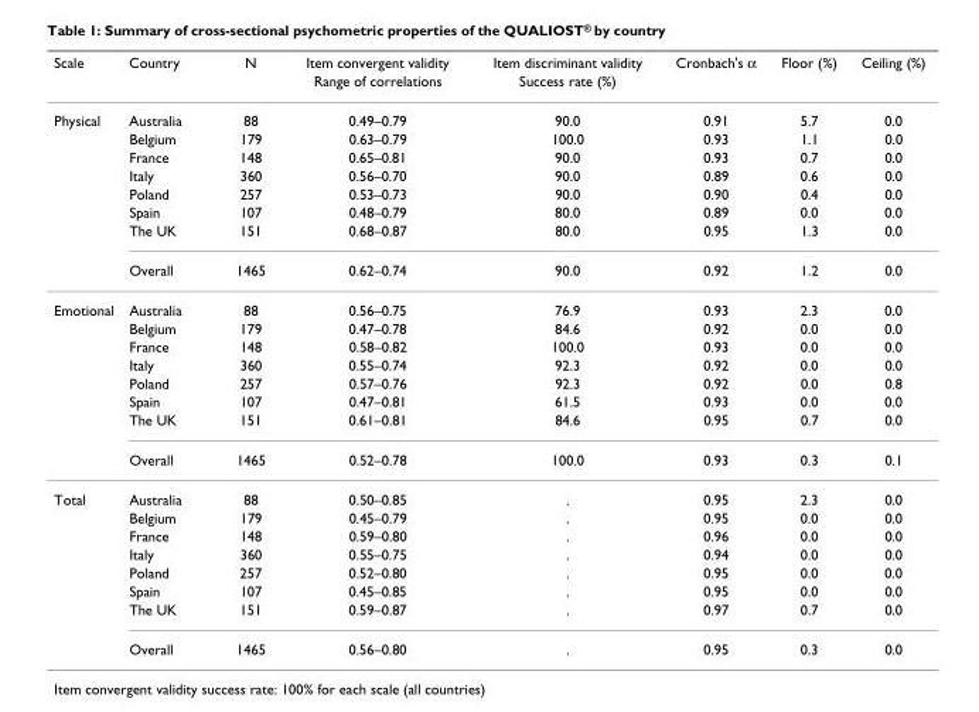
<table><thead><tr><td rowspan="2">Scale</td><td rowspan="2">Country</td><td rowspan="2">N</td><td rowspan="2">Item convergent validity Range of correlations</td><td rowspan="2">Item discriminant validity Success rate (%)</td><td rowspan="2">Cronbach&#x27;s α</td><td rowspan="2">Floor (%)</td><td rowspan="2">Ceiling (%)</td></tr><tr></tr></thead><tbody><tr><td rowspan="8">Physical</td><td>Australia</td><td>88</td><td>0.49–0.79</td><td>90.0</td><td>0.91</td><td>5.7</td><td>0.0</td></tr><tr><td>Belgium</td><td>179</td><td>0.63–0.79</td><td>100.0</td><td>0.93</td><td>1.1</td><td>0.0</td></tr><tr><td>France</td><td>148</td><td>0.65–0.81</td><td>90.0</td><td>0.93</td><td>0.7</td><td>0.0</td></tr><tr><td>Italy</td><td>360</td><td>0.56–0.70</td><td>90.0</td><td>0.89</td><td>0.6</td><td>0.0</td></tr><tr><td>Poland</td><td>257</td><td>0.53–0.73</td><td>90.0</td><td>0.90</td><td>0.4</td><td>0.0</td></tr><tr><td>Spain</td><td>107</td><td>0.48–0.79</td><td>80.0</td><td>0.89</td><td>0.0</td><td>0.0</td></tr><tr><td>The UK</td><td>151</td><td>0.68–0.87</td><td>80.0</td><td>0.95</td><td>1.3</td><td>0.0</td></tr><tr><td>Overall</td><td>1465</td><td>0.62–0.74</td><td>90.0</td><td>0.92</td><td>1.2</td><td>0.0</td></tr><tr><td rowspan="8">Emotional</td><td>Australia</td><td>88</td><td>0.56–0.75</td><td>76.9</td><td>0.93</td><td>2.3</td><td>0.0</td></tr><tr><td>Belgium</td><td>179</td><td>0.47–0.78</td><td>84.6</td><td>0.92</td><td>0.0</td><td>0.0</td></tr><tr><td>France</td><td>148</td><td>0.58–0.82</td><td>100.0</td><td>0.93</td><td>0.0</td><td>0.0</td></tr><tr><td>Italy</td><td>360</td><td>0.55–0.74</td><td>92.3</td><td>0.92</td><td>0.0</td><td>0.0</td></tr><tr><td>Poland</td><td>257</td><td>0.57–0.76</td><td>92.3</td><td>0.92</td><td>0.0</td><td>0.8</td></tr><tr><td>Spain</td><td>107</td><td>0.47–0.81</td><td>61.5</td><td>0.93</td><td>0.0</td><td>0.0</td></tr><tr><td>The UK</td><td>151</td><td>0.61–0.81</td><td>84.6</td><td>0.95</td><td>0.7</td><td>0.0</td></tr><tr><td>Overall</td><td>1465</td><td>0.52–0.78</td><td>100.0</td><td>0.93</td><td>0.3</td><td>0.1</td></tr><tr><td rowspan="8">Total</td><td>Australia</td><td>88</td><td>0.50–0.85</td><td>.</td><td>0.95</td><td>2.3</td><td>0.0</td></tr><tr><td>Belgium</td><td>179</td><td>0.45–0.79</td><td>.</td><td>0.95</td><td>0.0</td><td>0.0</td></tr><tr><td>France</td><td>148</td><td>0.59–0.80</td><td>.</td><td>0.96</td><td>0.0</td><td>0.0</td></tr><tr><td>Italy</td><td>360</td><td>0.55–0.75</td><td>.</td><td>0.94</td><td>0.0</td><td>0.0</td></tr><tr><td>Poland</td><td>257</td><td>0.52–0.80</td><td>.</td><td>0.95</td><td>0.0</td><td>0.0</td></tr><tr><td>Spain</td><td>107</td><td>0.45–0.85</td><td>.</td><td>0.95</td><td>0.0</td><td>0.0</td></tr><tr><td>The UK</td><td>151</td><td>0.59–0.87</td><td>.</td><td>0.97</td><td>0.7</td><td>0.0</td></tr><tr><td>Overall</td><td>1465</td><td>0.56–0.80</td><td>.</td><td>0.95</td><td>0.3</td><td>0.0</td></tr></tbody></table>